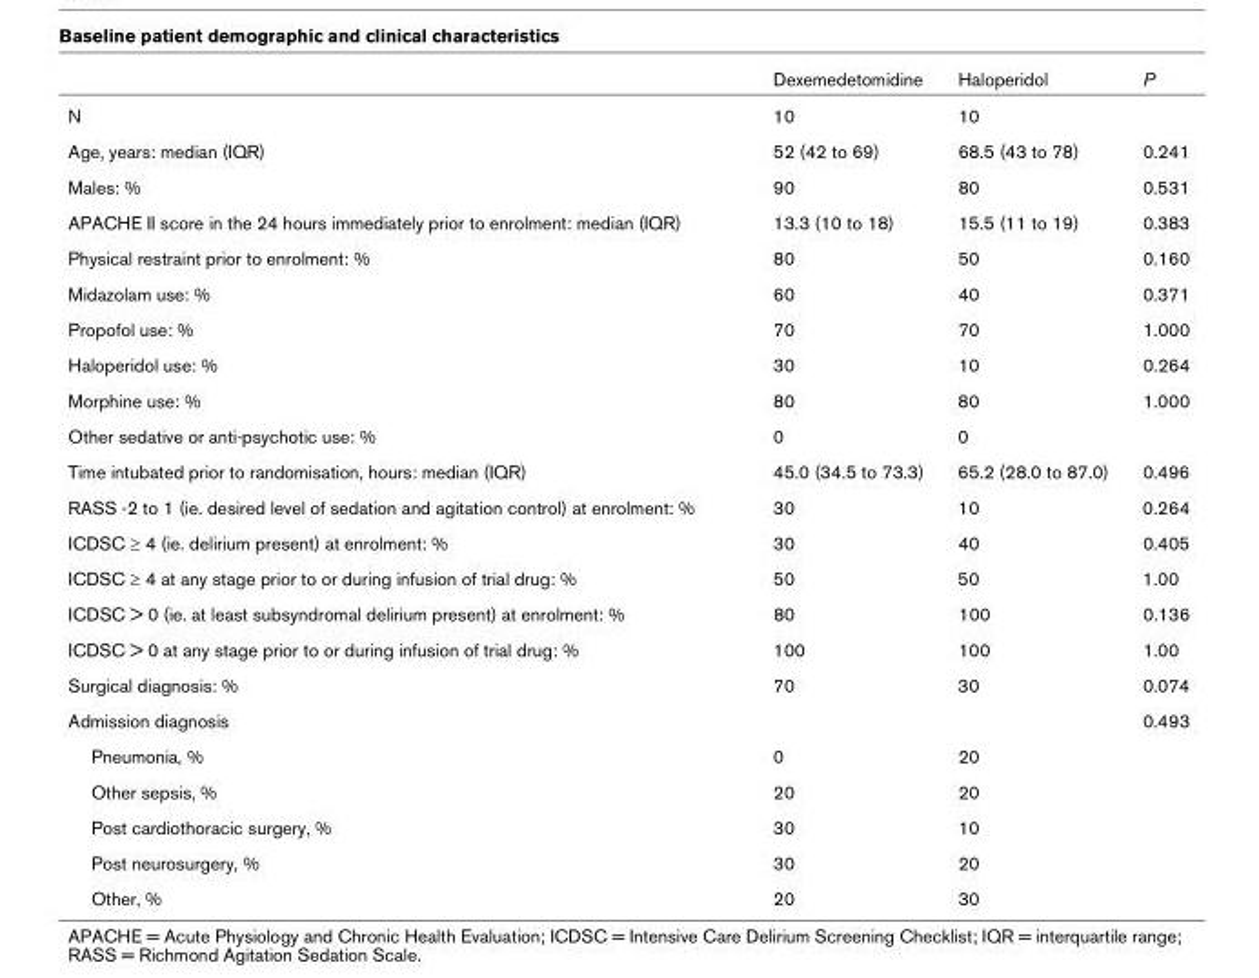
<table><thead><tr><td></td><td>Dexemedetomidine</td><td>Haloperidol</td><td>P</td></tr></thead><tbody><tr><td>N</td><td>10</td><td>10</td><td></td></tr><tr><td>Age, years: median (IQR)</td><td>52 (42 to 69)</td><td>68.5 (43 to 78)</td><td>0.241</td></tr><tr><td>Males: %</td><td>90</td><td>80</td><td>0.531</td></tr><tr><td>APACHE II score in the 24 hours immediately prior to enrolment: median (IQR)</td><td>13.3 (10 to 18)</td><td>15.5 (11 to 19)</td><td>0.383</td></tr><tr><td>Physical restraint prior to enrolment: %</td><td>80</td><td>50</td><td>0.160</td></tr><tr><td>Midazolam use: %</td><td>60</td><td>40</td><td>0.371</td></tr><tr><td>Propofol use: %</td><td>70</td><td>70</td><td>1.000</td></tr><tr><td>Haloperidol use: %</td><td>30</td><td>10</td><td>0.264</td></tr><tr><td>Morphine use: %</td><td>80</td><td>80</td><td>1.000</td></tr><tr><td>Other sedative or anti-psychotic use: %</td><td>0</td><td>0</td><td></td></tr><tr><td>Time intubated prior to randomisation, hours: median (IQR)</td><td>45.0 (34.5 to 73.3)</td><td>65.2 (28.0 to 87.0)</td><td>0.496</td></tr><tr><td>RASS -2 to 1 (ie. desired level of sedation and agitation control) at enrolment: %</td><td>30</td><td>10</td><td>0.264</td></tr><tr><td>ICDSC ≥ 4 (ie. delirium present) at enrolment: %</td><td>30</td><td>40</td><td>0.405</td></tr><tr><td>ICDSC ≥ 4 at any stage prior to or during infusion of trial drug: %</td><td>50</td><td>50</td><td>1.00</td></tr><tr><td>ICDSC &gt; 0 (ie. at least subsyndromal delirium present) at enrolment: %</td><td>80</td><td>100</td><td>0.136</td></tr><tr><td>ICDSC &gt; 0 at any stage prior to or during infusion of trial drug: %</td><td>100</td><td>100</td><td>1.00</td></tr><tr><td>Surgical diagnosis: %</td><td>70</td><td>30</td><td>0.074</td></tr><tr><td>Admission diagnosis</td><td></td><td></td><td>0.493</td></tr><tr><td>Pneumonia, %</td><td>0</td><td>20</td><td></td></tr><tr><td>Other sepsis, %</td><td>20</td><td>20</td><td></td></tr><tr><td>Post cardiothoracic surgery, %</td><td>30</td><td>10</td><td></td></tr><tr><td>Post neurosurgery, %</td><td>30</td><td>20</td><td></td></tr><tr><td>Other, %</td><td>20</td><td>30</td><td></td></tr></tbody></table>